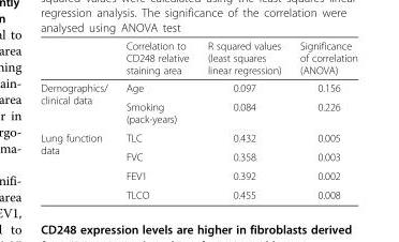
<table><thead><tr><td></td><td>Correlation to CD248 relative staining area</td><td>R squared values (least squares linear regression)</td><td>Significance of correlation (ANOVA)</td></tr></thead><tbody><tr><td rowspan="2">Demographics/ clinical data</td><td>Age</td><td>0.097</td><td>0.156</td></tr><tr><td>Smoking (pack-years)</td><td>0.084</td><td>0.226</td></tr><tr><td rowspan="4">Lung function data</td><td>TLC</td><td>0.432</td><td>0.005</td></tr><tr><td>FVC</td><td>0.358</td><td>0.003</td></tr><tr><td>FEV1</td><td>0.392</td><td>0.002</td></tr><tr><td>TLCO</td><td>0.455</td><td>0.008</td></tr></tbody></table>